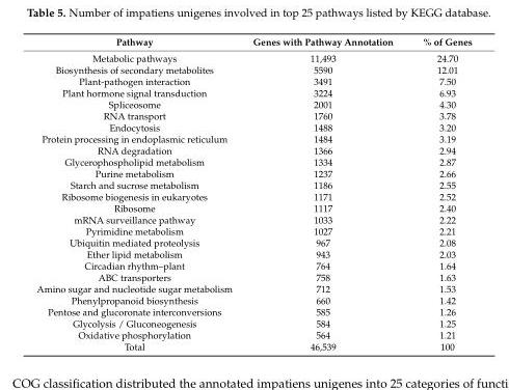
<table><thead><tr><td>Pathway</td><td>Genes with Pathway Annotation</td><td>% of Genes</td></tr></thead><tbody><tr><td>Metabolic pathways</td><td>11,493</td><td>24.70</td></tr><tr><td>Biosynthesis of secondary metabolites</td><td>5590</td><td>12.01</td></tr><tr><td>Plant-pathogen interaction</td><td>3491</td><td>7.50</td></tr><tr><td>Plant hormone signal transduction</td><td>3224</td><td>6.93</td></tr><tr><td>Spliceosome</td><td>2001</td><td>4.30</td></tr><tr><td>RNA transport</td><td>1760</td><td>3.78</td></tr><tr><td>Endocytosis</td><td>1488</td><td>3.20</td></tr><tr><td>Protein processing in endoplasmic reticulum</td><td>1484</td><td>3.19</td></tr><tr><td>RNA degradation</td><td>1366</td><td>2.94</td></tr><tr><td>Glycerophospholipid metabolism</td><td>1334</td><td>2.87</td></tr><tr><td>Purine metabolism</td><td>1237</td><td>2.66</td></tr><tr><td>Starch and sucrose metabolism</td><td>1186</td><td>2.55</td></tr><tr><td>Ribosome biogenesis in eukaryotes</td><td>1171</td><td>2.52</td></tr><tr><td>Ribosome</td><td>1117</td><td>2.40</td></tr><tr><td>mRNA surveillance pathway</td><td>1033</td><td>2.22</td></tr><tr><td>Pyrimidine metabolism</td><td>1027</td><td>2.21</td></tr><tr><td>Ubiquitin mediated proteolysis</td><td>967</td><td>2.08</td></tr><tr><td>Ether lipid metabolism</td><td>943</td><td>2.03</td></tr><tr><td>Circadian rhythm–plant</td><td>764</td><td>1.64</td></tr><tr><td>ABC transporters</td><td>758</td><td>1.63</td></tr><tr><td>Amino sugar and nucleotide sugar metabolism</td><td>712</td><td>1.53</td></tr><tr><td>Phenylpropanoid biosynthesis</td><td>660</td><td>1.42</td></tr><tr><td>Pentose and glucoronate interconversions</td><td>585</td><td>1.26</td></tr><tr><td>Glycolysis / Gluconeogenesis</td><td>584</td><td>1.25</td></tr><tr><td>Oxidative phosphorylation</td><td>564</td><td>1.21</td></tr><tr><td>Total</td><td>46,539</td><td>100</td></tr></tbody></table>